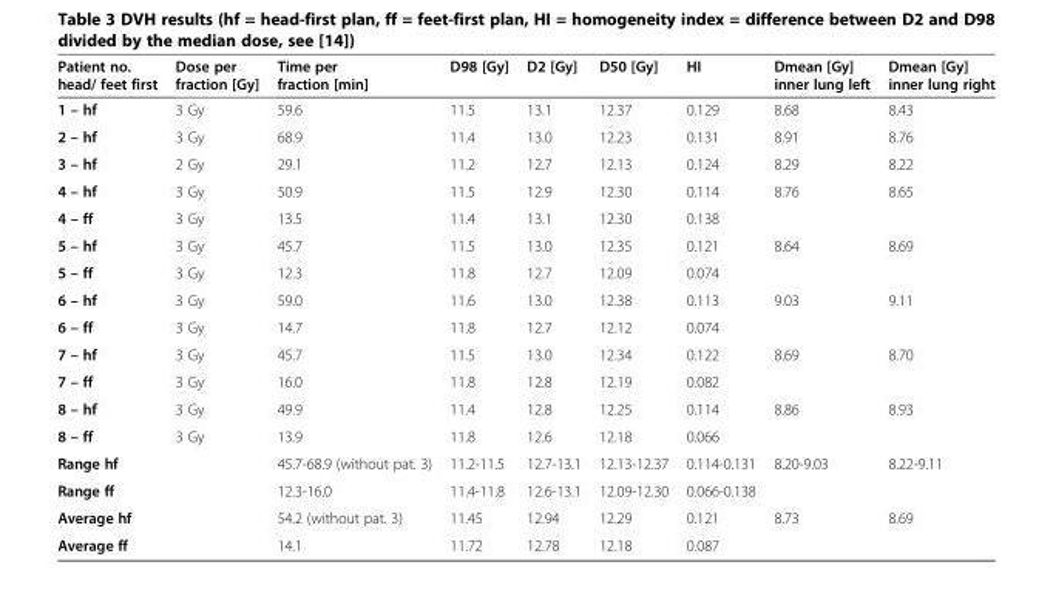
<table><thead><tr><td>Patient no. head/ feet first</td><td>Dose per fraction [Gy]</td><td>Time per fraction [min]</td><td>D98 [Gy]</td><td>D2 [Gy]</td><td>D50 [Gy]</td><td>HI</td><td>Dmean [Gy] inner lung left</td><td>Dmean [Gy] inner lung right</td></tr></thead><tbody><tr><td>1 – hf</td><td>3 Gy</td><td>59.6</td><td>11.5</td><td>13.1</td><td>12.37</td><td>0.129</td><td>8.68</td><td>8.43</td></tr><tr><td>2 – hf</td><td>3 Gy</td><td>68.9</td><td>11.4</td><td>13.0</td><td>12.23</td><td>0.131</td><td>8.91</td><td>8.76</td></tr><tr><td>3 – hf</td><td>2 Gy</td><td>29.1</td><td>11.2</td><td>12.7</td><td>12.13</td><td>0.124</td><td>8.29</td><td>8.22</td></tr><tr><td>4 – hf</td><td>3 Gy</td><td>50.9</td><td>11.5</td><td>12.9</td><td>12.30</td><td>0.114</td><td>8.76</td><td>8.65</td></tr><tr><td>4 – ff</td><td>3 Gy</td><td>13.5</td><td>11.4</td><td>13.1</td><td>12.30</td><td>0.138</td><td></td><td></td></tr><tr><td>5 – hf</td><td>3 Gy</td><td>45.7</td><td>11.5</td><td>13.0</td><td>12.35</td><td>0.121</td><td>8.64</td><td>8.69</td></tr><tr><td>5 – ff</td><td>3 Gy</td><td>12.3</td><td>11.8</td><td>12.7</td><td>12.09</td><td>0.074</td><td></td><td></td></tr><tr><td>6 – hf</td><td>3 Gy</td><td>59.0</td><td>11.6</td><td>13.0</td><td>12.38</td><td>0.113</td><td>9.03</td><td>9.11</td></tr><tr><td>6 – ff</td><td>3 Gy</td><td>14.7</td><td>11.8</td><td>12.7</td><td>12.12</td><td>0.074</td><td></td><td></td></tr><tr><td>7 – hf</td><td>3 Gy</td><td>45.7</td><td>11.5</td><td>13.0</td><td>12.34</td><td>0.122</td><td>8.69</td><td>8.70</td></tr><tr><td>7 – ff</td><td>3 Gy</td><td>16.0</td><td>11.8</td><td>12.8</td><td>12.19</td><td>0.082</td><td></td><td></td></tr><tr><td>8 – hf</td><td>3 Gy</td><td>49.9</td><td>11.4</td><td>12.8</td><td>12.25</td><td>0.114</td><td>8.86</td><td>8.93</td></tr><tr><td>8 – ff</td><td>3 Gy</td><td>13.9</td><td>11.8</td><td>12.6</td><td>12.18</td><td>0.066</td><td></td><td></td></tr><tr><td>Range hf</td><td></td><td>45.7-68.9 (without pat. 3)</td><td>11.2-11.5</td><td>12.7-13.1</td><td>12.13-12.37</td><td>0.114-0.131</td><td>8.20-9.03</td><td>8.22-9.11</td></tr><tr><td>Range ff</td><td></td><td>12.3-16.0</td><td>11.4-11.8</td><td>12.6-13.1</td><td>12.09-12.30</td><td>0.066-0.138</td><td></td><td></td></tr><tr><td>Average hf</td><td></td><td>54.2 (without pat. 3)</td><td>11.45</td><td>12.94</td><td>12.29</td><td>0.121</td><td>8.73</td><td>8.69</td></tr><tr><td>Average ff</td><td></td><td>14.1</td><td>11.72</td><td>12.78</td><td>12.18</td><td>0.087</td><td></td><td></td></tr></tbody></table>